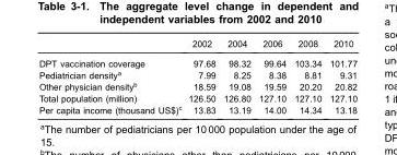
<table><thead><tr><td></td><td>2002</td><td>2004</td><td>2006</td><td>2008</td><td>2010</td></tr></thead><tbody><tr><td>DPT vaccination coverage</td><td>97.68</td><td>98.32</td><td>99.64</td><td>103.34</td><td>101.77</td></tr><tr><td>Pediatrician density<sup>a</sup></td><td>7.99</td><td>8.25</td><td>8.38</td><td>8.81</td><td>9.31</td></tr><tr><td>Other physician density<sup>b</sup></td><td>18.59</td><td>19.08</td><td>19.59</td><td>20.20</td><td>20.82</td></tr><tr><td>Total population (million)</td><td>126.50</td><td>126.80</td><td>127.10</td><td>127.10</td><td>127.10</td></tr><tr><td>Per capita income (thousand US$)<sup>c</sup></td><td>13.83</td><td>13.19</td><td>14.00</td><td>14.34</td><td>13.18</td></tr></tbody></table>